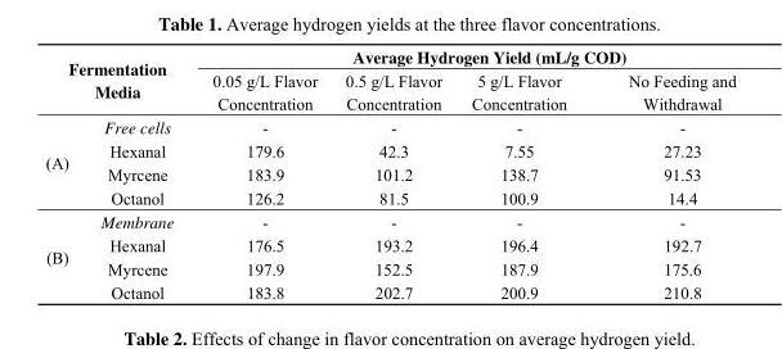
<table><tbody><tr><td rowspan="2" colspan="2">Fermentation Media</td><td colspan="4">Average Hydrogen Yield (mL/g COD)</td></tr><tr><td>0.05 g/L Flavor Concentration</td><td>0.5 g/L Flavor Concentration</td><td>5 g/L Flavor Concentration</td><td>No Feeding and Withdrawal</td></tr><tr><td rowspan="4">(A)</td><td>Free cells</td><td>-</td><td>-</td><td>-</td><td>-</td></tr><tr><td>Hexanal</td><td>179.6</td><td>42.3</td><td>7.55</td><td>27.23</td></tr><tr><td>Myrcene</td><td>183.9</td><td>101.2</td><td>138.7</td><td>91.53</td></tr><tr><td>Octanol</td><td>126.2</td><td>81.5</td><td>100.9</td><td>14.4</td></tr><tr><td rowspan="4">(B)</td><td>Membrane</td><td>-</td><td>-</td><td>-</td><td>-</td></tr><tr><td>Hexanal</td><td>176.5</td><td>193.2</td><td>196.4</td><td>192.7</td></tr><tr><td>Myrcene</td><td>197.9</td><td>152.5</td><td>187.9</td><td>175.6</td></tr><tr><td>Octanol</td><td>183.8</td><td>202.7</td><td>200.9</td><td>210.8</td></tr></tbody></table>